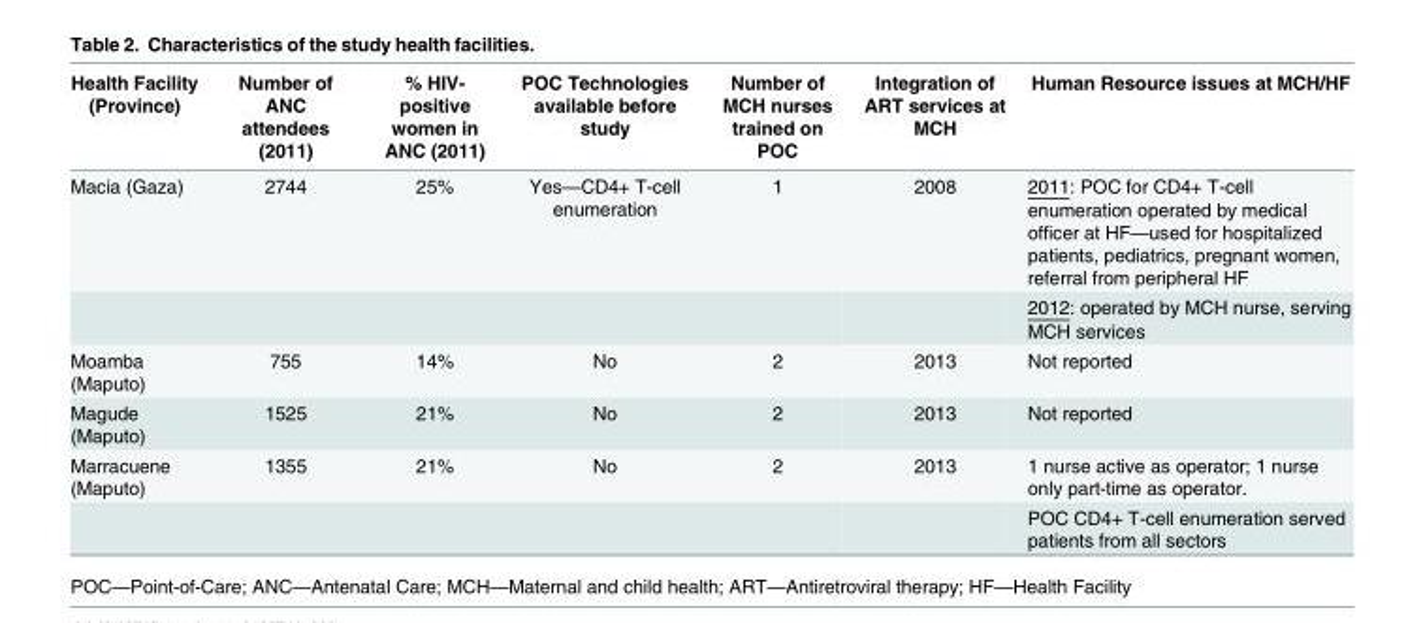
<table><thead><tr><td>Health Facility (Province)</td><td>Number of ANC attendees (2011)</td><td>% HIV- positive women in ANC (2011)</td><td>POC Technologies available before study</td><td>Number of MCH nurses trained on POC</td><td>Integration of ART services at MCH</td><td>Human Resource issues at MCH/HF</td></tr></thead><tbody><tr><td rowspan="2">Macia (Gaza)</td><td>2744</td><td>25%</td><td>Yes—CD4+ T-cell enumeration</td><td>1</td><td>2008</td><td>2011: POC for CD4+ T-cell enumeration operated by medical officer at HF—used for hospitalized patients, pediatrics, pregnant women, referral from peripheral HF</td></tr><tr><td></td><td></td><td></td><td></td><td></td><td>2012: operated by MCH nurse, serving MCH services</td></tr><tr><td>Moamba (Maputo)</td><td>755</td><td>14%</td><td>No</td><td>2</td><td>2013</td><td>Not reported</td></tr><tr><td>Magude (Maputo)</td><td>1525</td><td>21%</td><td>No</td><td>2</td><td>2013</td><td>Not reported</td></tr><tr><td rowspan="2">Marracuene (Maputo)</td><td>1355</td><td>21%</td><td>No</td><td>2</td><td>2013</td><td>1 nurse active as operator; 1 nurse only part-time as operator.</td></tr><tr><td></td><td></td><td></td><td></td><td></td><td>POC CD4+ T-cell enumeration served patients from all sectors</td></tr></tbody></table>